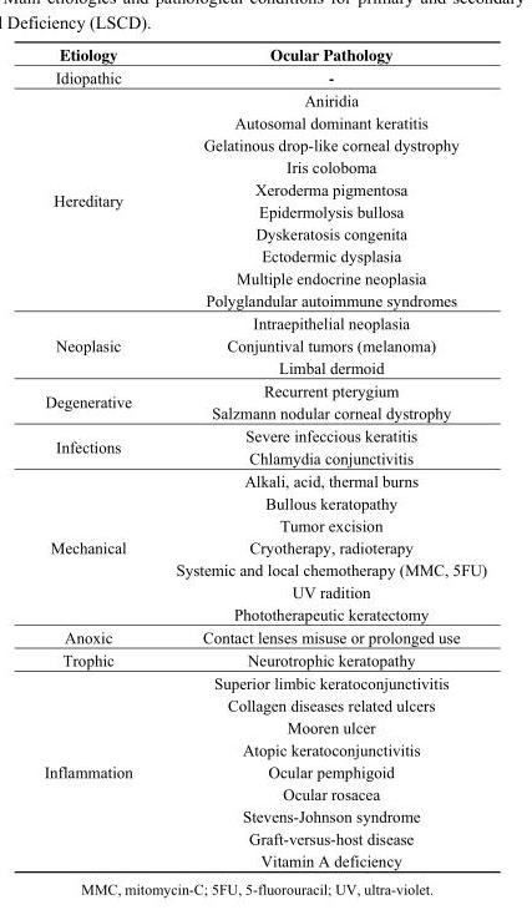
<table><thead><tr><td>Etiology</td><td>Ocular Pathology</td></tr></thead><tbody><tr><td>Idiopathic</td><td>-</td></tr><tr><td rowspan="10">Hereditary</td><td>Aniridia</td></tr><tr><td>Autosomal dominant keratitis</td></tr><tr><td>Gelatinous drop-like corneal dystrophy</td></tr><tr><td>Iris coloboma</td></tr><tr><td>Xeroderma pigmentosa</td></tr><tr><td>Epidermolysis bullosa</td></tr><tr><td>Dyskeratosis congenita</td></tr><tr><td>Ectodermic dysplasia</td></tr><tr><td>Multiple endocrine neoplasia</td></tr><tr><td>Polyglandular autoimmune syndromes</td></tr><tr><td rowspan="3">Neoplasic</td><td>Intraepithelial neoplasia</td></tr><tr><td>Conjuntival tumors (melanoma)</td></tr><tr><td>Limbal dermoid</td></tr><tr><td rowspan="2">Degenerative</td><td>Recurrent pterygium</td></tr><tr><td>Salzmann nodular corneal dystrophy</td></tr><tr><td rowspan="2">Infections</td><td>Severe infeccious keratitis</td></tr><tr><td>Chlamydia conjunctivitis</td></tr><tr><td rowspan="7">Mechanical</td><td>Alkali, acid, thermal burns</td></tr><tr><td>Bullous keratopathy</td></tr><tr><td>Tumor excision</td></tr><tr><td>Cryotherapy, radioterapy</td></tr><tr><td>Systemic and local chemotherapy (MMC, 5FU)</td></tr><tr><td>UV radition</td></tr><tr><td>Phototherapeutic keratectomy</td></tr><tr><td>Anoxic</td><td>Contact lenses misuse or prolonged use</td></tr><tr><td>Trophic</td><td>Neurotrophic keratopathy</td></tr><tr><td rowspan="9">Inflammation</td><td>Superior limbic keratoconjunctivitis</td></tr><tr><td>Collagen diseases related ulcers</td></tr><tr><td>Mooren ulcer</td></tr><tr><td>Atopic keratoconjunctivitis</td></tr><tr><td>Ocular pemphigoid</td></tr><tr><td>Ocular rosacea</td></tr><tr><td>Stevens-Johnson syndrome</td></tr><tr><td>Graft-versus-host disease</td></tr><tr><td>Vitamin A deficiency</td></tr></tbody></table>